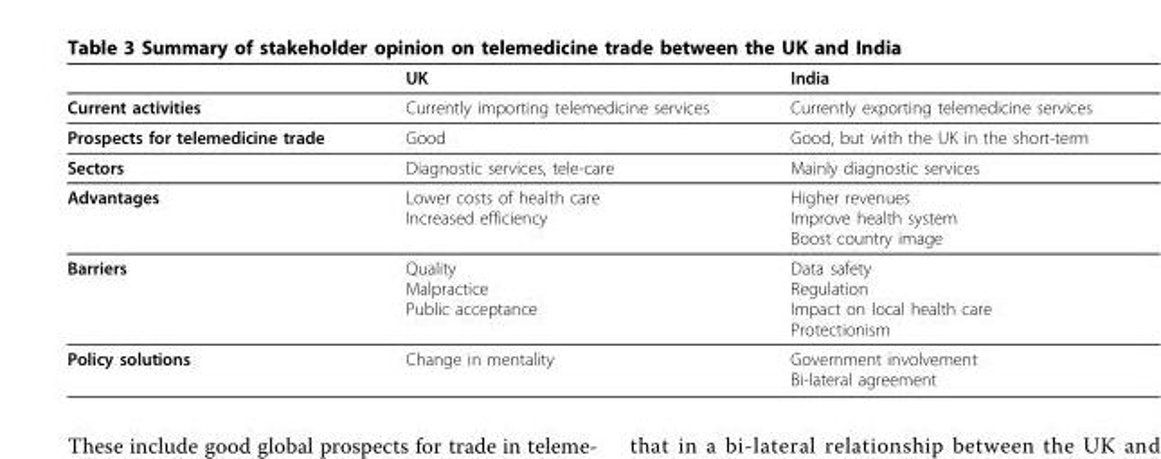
<table><thead><tr><td></td><td>UK</td><td>India</td></tr></thead><tbody><tr><td>Current activities</td><td>Currently importing telemedicine services</td><td>Currently exporting telemedicine services</td></tr><tr><td>Prospects for telemedicine trade</td><td>Good</td><td>Good, but with the UK in the short-term</td></tr><tr><td>Sectors</td><td>Diagnostic services, tele-care</td><td>Mainly diagnostic services</td></tr><tr><td>Advantages</td><td>Lower costs of health care Increased efficiency</td><td>Higher revenues Improve health system Boost country image</td></tr><tr><td>Barriers</td><td>Quality Malpractice Public acceptance</td><td>Data safety Regulation Impact on local health care Protectionism</td></tr><tr><td>Policy solutions</td><td>Change in mentality</td><td>Government involvement Bi-lateral agreement</td></tr></tbody></table>